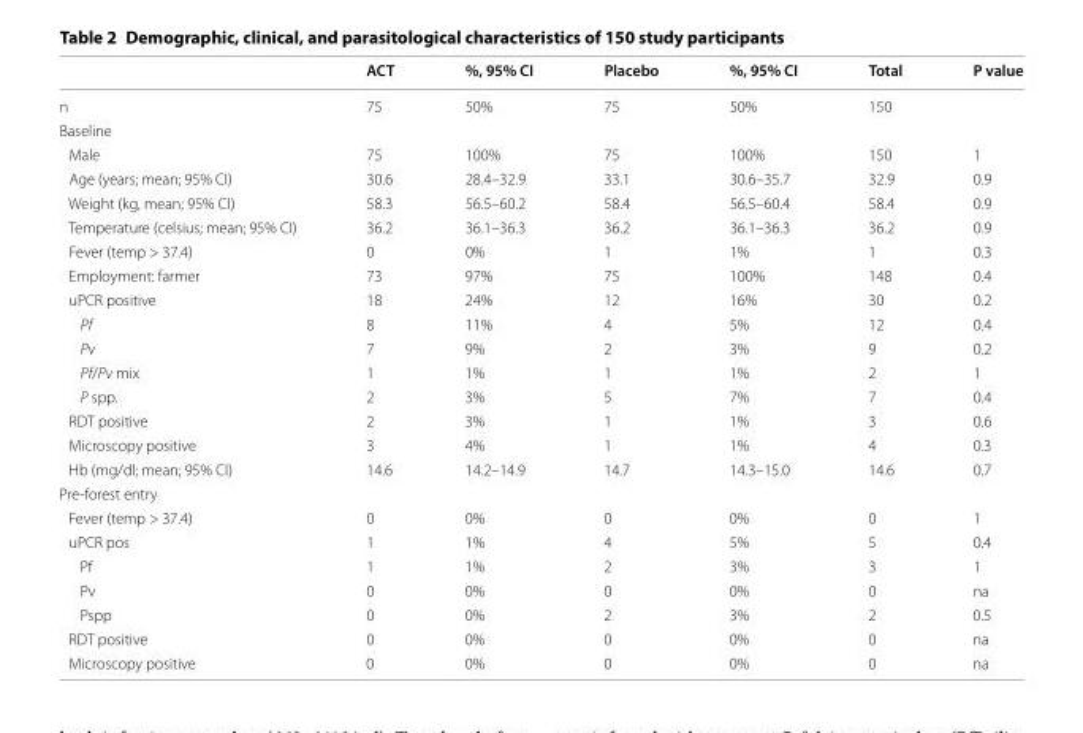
<table><thead><tr><td></td><td>ACT</td><td>%, 95% CI</td><td>Placebo</td><td>%, 95% CI</td><td>Total</td><td>P value</td></tr></thead><tbody><tr><td>n</td><td>75</td><td>50%</td><td>75</td><td>50%</td><td>150</td><td></td></tr><tr><td colspan="7">Baseline</td></tr><tr><td>Male</td><td>75</td><td>100%</td><td>75</td><td>100%</td><td>150</td><td>1</td></tr><tr><td>Age (years; mean; 95% CI)</td><td>30.6</td><td>28.4–32.9</td><td>33.1</td><td>30.6–35.7</td><td>32.9</td><td>0.9</td></tr><tr><td>Weight (kg, mean; 95% CI)</td><td>58.3</td><td>56.5–60.2</td><td>58.4</td><td>56.5–60.4</td><td>58.4</td><td>0.9</td></tr><tr><td>Temperature (celsius; mean; 95% CI)</td><td>36.2</td><td>36.1–36.3</td><td>36.2</td><td>36.1–36.3</td><td>36.2</td><td>0.9</td></tr><tr><td>Fever (temp &gt; 37.4)</td><td>0</td><td>0%</td><td>1</td><td>1%</td><td>1</td><td>0.3</td></tr><tr><td>Employment: farmer</td><td>73</td><td>97%</td><td>75</td><td>100%</td><td>148</td><td>0.4</td></tr><tr><td>uPCR positive</td><td>18</td><td>24%</td><td>12</td><td>16%</td><td>30</td><td>0.2</td></tr><tr><td>Pf</td><td>8</td><td>11%</td><td>4</td><td>5%</td><td>12</td><td>0.4</td></tr><tr><td>Pv</td><td>7</td><td>9%</td><td>2</td><td>3%</td><td>9</td><td>0.2</td></tr><tr><td>Pf/Pv mix</td><td>1</td><td>1%</td><td>1</td><td>1%</td><td>2</td><td>1</td></tr><tr><td>P spp.</td><td>2</td><td>3%</td><td>5</td><td>7%</td><td>7</td><td>0.4</td></tr><tr><td>RDT positive</td><td>2</td><td>3%</td><td>1</td><td>1%</td><td>3</td><td>0.6</td></tr><tr><td>Microscopy positive</td><td>3</td><td>4%</td><td>1</td><td>1%</td><td>4</td><td>0.3</td></tr><tr><td>Hb (mg/dl; mean; 95% CI)</td><td>14.6</td><td>14.2–14.9</td><td>14.7</td><td>14.3–15.0</td><td>14.6</td><td>0.7</td></tr><tr><td colspan="7">Pre‑forest entry</td></tr><tr><td>Fever (temp &gt; 37.4)</td><td>0</td><td>0%</td><td>0</td><td>0%</td><td>0</td><td>1</td></tr><tr><td>uPCR pos</td><td>1</td><td>1%</td><td>4</td><td>5%</td><td>5</td><td>0.4</td></tr><tr><td>Pf</td><td>1</td><td>1%</td><td>2</td><td>3%</td><td>3</td><td>1</td></tr><tr><td>Pv</td><td>0</td><td>0%</td><td>0</td><td>0%</td><td>0</td><td>na</td></tr><tr><td>Pspp</td><td>0</td><td>0%</td><td>2</td><td>3%</td><td>2</td><td>0.5</td></tr><tr><td>RDT positive</td><td>0</td><td>0%</td><td>0</td><td>0%</td><td>0</td><td>na</td></tr><tr><td>Microscopy positive</td><td>0</td><td>0%</td><td>0</td><td>0%</td><td>0</td><td>na</td></tr></tbody></table>